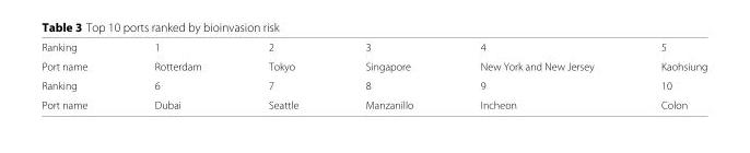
<table><tbody><tr><td>Ranking</td><td>1</td><td>2</td><td>3</td><td>4</td><td>5</td></tr><tr><td>Port name</td><td>Rotterdam</td><td>Tokyo</td><td>Singapore</td><td>New York and New Jersey</td><td>Kaohsiung</td></tr><tr><td>Ranking</td><td>6</td><td>7</td><td>8</td><td>9</td><td>10</td></tr><tr><td>Port name</td><td>Dubai</td><td>Seattle</td><td>Manzanillo</td><td>Incheon</td><td>Colon</td></tr></tbody></table>